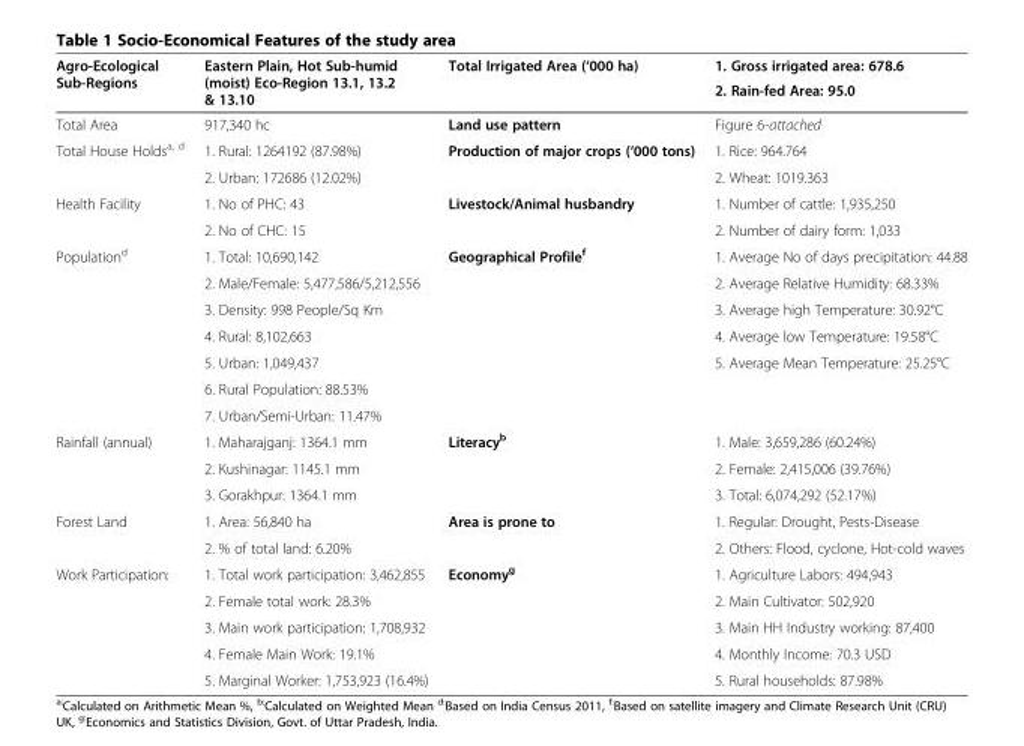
<table><thead><tr><td rowspan="2">Agro-Ecological Sub-Regions</td><td rowspan="2">Eastern Plain, Hot Sub-humid (moist) Eco-Region 13.1, 13.2 &amp; 13.10</td><td rowspan="2">Total Irrigated Area (‘000 ha)</td><td rowspan="2">1. Gross irrigated area: 678.6 2. Rain-fed Area: 95.0</td></tr><tr></tr></thead><tbody><tr><td>Total Area</td><td>917,340 hc</td><td>Land use pattern</td><td>Figure 6-attached</td></tr><tr><td rowspan="2">Total House Holds<sup>a, d</sup></td><td>1. Rural: 1264192 (87.98%)</td><td rowspan="2">Production of major crops (‘000 tons)</td><td>1. Rice: 964.764</td></tr><tr><td>2. Urban: 172686 (12.02%)</td><td>2. Wheat: 1019.363</td></tr><tr><td rowspan="2">Health Facility</td><td>1. No of PHC: 43</td><td rowspan="2">Livestock/Animal husbandry</td><td>1. Number of cattle: 1,935,250</td></tr><tr><td>2. No of CHC: 15</td><td>2. Number of dairy form: 1,033</td></tr><tr><td rowspan="7">Population<sup>d</sup></td><td>1. Total: 10,690,142</td><td rowspan="7">Geographical Profile<sup>f</sup></td><td>1. Average No of days precipitation: 44.88</td></tr><tr><td>2. Male/Female: 5,477,586/5,212,556</td><td>2. Average Relative Humidity: 68.33%</td></tr><tr><td>3. Density: 998 People/Sq Km</td><td>3. Average high Temperature: 30.92°C</td></tr><tr><td>4. Rural: 8,102,663</td><td>4. Average low Temperature: 19.58°C</td></tr><tr><td>5. Urban: 1,049,437</td><td>5. Average Mean Temperature: 25.25°C</td></tr><tr><td>6. Rural Population: 88.53%</td><td rowspan="2"></td></tr><tr><td>7. Urban/Semi-Urban: 11.47%</td></tr><tr><td rowspan="3">Rainfall (annual)</td><td>1. Maharajganj: 1364.1 mm</td><td rowspan="3">Literacy<sup>b</sup></td><td>1. Male: 3,659,286 (60.24%)</td></tr><tr><td>2. Kushinagar: 1145.1 mm</td><td>2. Female: 2,415,006 (39.76%)</td></tr><tr><td>3. Gorakhpur: 1364.1 mm</td><td>3. Total: 6,074,292 (52.17%)</td></tr><tr><td rowspan="2">Forest Land</td><td>1. Area: 56,840 ha</td><td>Area is prone to</td><td>1. Regular: Drought, Pests-Disease</td></tr><tr><td>2. % of total land: 6.20%</td><td></td><td>2. Others: Flood, cyclone, Hot-cold waves</td></tr><tr><td rowspan="5">Work Participation:</td><td>1. Total work participation: 3,462,855</td><td rowspan="5">Economy<sup>g</sup></td><td>1. Agriculture Labors: 494,943</td></tr><tr><td>2. Female total work: 28.3%</td><td>2. Main Cultivator: 502,920</td></tr><tr><td>3. Main work participation: 1,708,932</td><td>3. Main HH Industry working: 87,400</td></tr><tr><td>4. Female Main Work: 19.1%</td><td>4. Monthly Income: 70.3 USD</td></tr><tr><td>5. Marginal Worker: 1,753,923 (16.4%)</td><td>5. Rural households: 87.98%</td></tr></tbody></table>